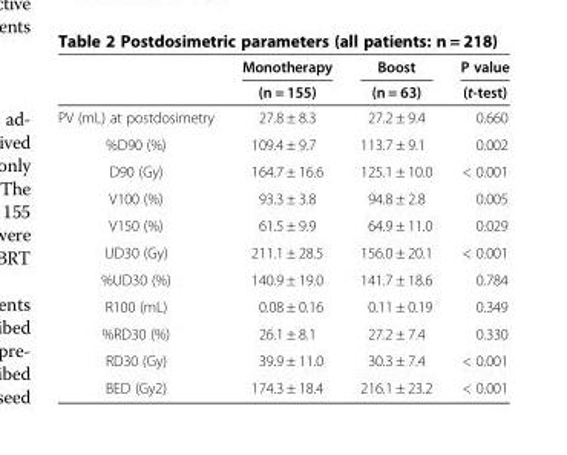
<table><thead><tr><td rowspan="2"></td><td rowspan="2">Monotherapy (n = 155)</td><td rowspan="2">Boost (n = 63)</td><td rowspan="2">P value (t-test)</td></tr><tr></tr></thead><tbody><tr><td>PV (mL) at postdosimetry</td><td>27.8 ± 8.3</td><td>27.2 ± 9.4</td><td>0.660</td></tr><tr><td>%D90 (%)</td><td>109.4 ± 9.7</td><td>113.7 ± 9.1</td><td>0.002</td></tr><tr><td>D90 (Gy)</td><td>164.7 ± 16.6</td><td>125.1 ± 10.0</td><td>&lt; 0.001</td></tr><tr><td>V100 (%)</td><td>93.3 ± 3.8</td><td>94.8 ± 2.8</td><td>0.005</td></tr><tr><td>V150 (%)</td><td>61.5 ± 9.9</td><td>64.9 ± 11.0</td><td>0.029</td></tr><tr><td>UD30 (Gy)</td><td>211.1 ± 28.5</td><td>156.0 ± 20.1</td><td>&lt; 0.001</td></tr><tr><td>%UD30 (%)</td><td>140.9 ± 19.0</td><td>141.7 ± 18.6</td><td>0.784</td></tr><tr><td>R100 (mL)</td><td>0.08 ± 0.16</td><td>0.11 ± 0.19</td><td>0.349</td></tr><tr><td>%RD30 (%)</td><td>26.1 ± 8.1</td><td>27.2 ± 7.4</td><td>0.330</td></tr><tr><td>RD30 (Gy)</td><td>39.9 ± 11.0</td><td>30.3 ± 7.4</td><td>&lt; 0.001</td></tr><tr><td>BED (Gy2)</td><td>174.3 ± 18.4</td><td>216.1 ± 23.2</td><td>&lt; 0.001</td></tr></tbody></table>